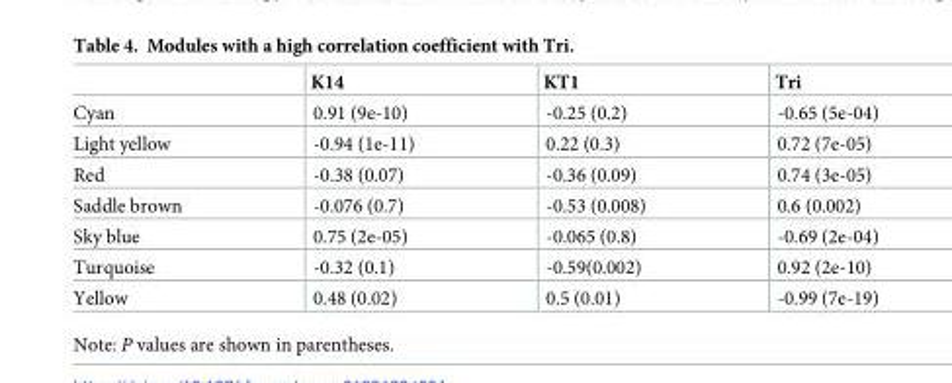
<table><thead><tr><td></td><td>K14</td><td>KT1</td><td>Tri</td></tr></thead><tbody><tr><td>Cyan</td><td>0.91 (9e-10)</td><td>-0.25 (0.2)</td><td>-0.65 (5e-04)</td></tr><tr><td>Light yellow</td><td>-0.94 (1e-11)</td><td>0.22 (0.3)</td><td>0.72 (7e-05)</td></tr><tr><td>Red</td><td>-0.38 (0.07)</td><td>-0.36 (0.09)</td><td>0.74 (3e-05)</td></tr><tr><td>Saddle brown</td><td>-0.076 (0.7)</td><td>-0.53 (0.008)</td><td>0.6 (0.002)</td></tr><tr><td>Sky blue</td><td>0.75 (2e-05)</td><td>-0.065 (0.8)</td><td>-0.69 (2e-04)</td></tr><tr><td>Turquoise</td><td>-0.32 (0.1)</td><td>-0.59(0.002)</td><td>0.92 (2e-10)</td></tr><tr><td>Yellow</td><td>0.48 (0.02)</td><td>0.5 (0.01)</td><td>-0.99 (7e-19)</td></tr></tbody></table>